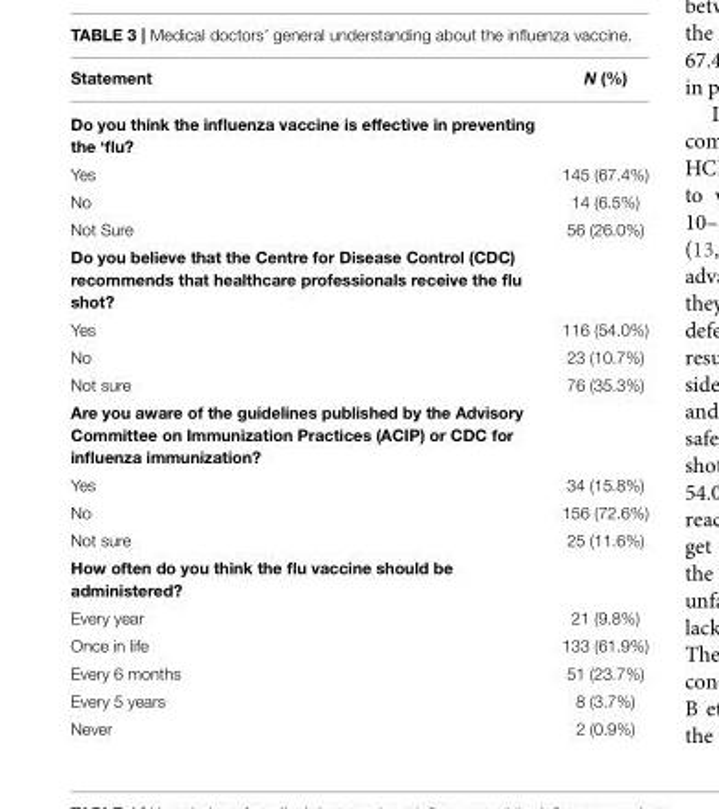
<table><thead><tr><td>Statement</td><td>N (%)</td></tr></thead><tbody><tr><td colspan="2">Do you think the influenza vaccine is effective in preventing the ‘flu?</td></tr><tr><td>Yes</td><td>145 (67.4%)</td></tr><tr><td>No</td><td>14 (6.5%)</td></tr><tr><td>Not Sure</td><td>56 (26.0%)</td></tr><tr><td colspan="2">Do you believe that the Centre for Disease Control (CDC) recommends that healthcare professionals receive the flu shot?</td></tr><tr><td>Yes</td><td>116 (54.0%)</td></tr><tr><td>No</td><td>23 (10.7%)</td></tr><tr><td>Not sure</td><td>76 (35.3%)</td></tr><tr><td colspan="2">Are you aware of the guidelines published by the Advisory Committee on Immunization Practices (ACIP) or CDC for influenza immunization?</td></tr><tr><td>Yes</td><td>34 (15.8%)</td></tr><tr><td>No</td><td>156 (72.6%)</td></tr><tr><td>Not sure</td><td>25 (11.6%)</td></tr><tr><td colspan="2">How often do you think the flu vaccine should be administered?</td></tr><tr><td>Every year</td><td>21 (9.8%)</td></tr><tr><td>Once in life</td><td>133 (61.9%)</td></tr><tr><td>Every 6 months</td><td>51 (23.7%)</td></tr><tr><td>Every 5 years</td><td>8 (3.7%)</td></tr><tr><td>Never</td><td>2 (0.9%)</td></tr></tbody></table>